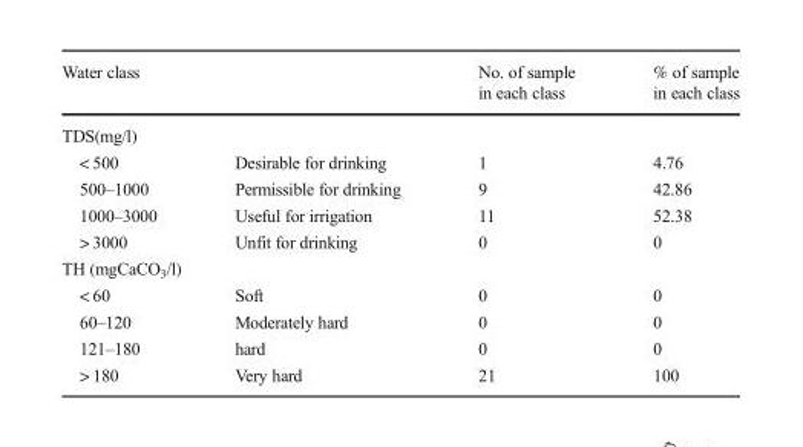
<table><thead><tr><td colspan="2">Water class</td><td>No. of sample in each class</td><td>% of sample in each class</td></tr><tr><td colspan="4">TDS(mg/l)</td></tr><tr><td>&lt; 500</td><td>Desirable for drinking</td><td>1</td><td>4.76</td></tr></thead><tbody><tr><td>500–1000</td><td>Permissible for drinking</td><td>9</td><td>42.86</td></tr><tr><td>1000–3000</td><td>Useful for irrigation</td><td>11</td><td>52.38</td></tr><tr><td>&gt; 3000</td><td>Unfit for drinking</td><td>0</td><td>0</td></tr><tr><td colspan="4">TH (mgCaCO<sub>3</sub>/l)</td></tr><tr><td>&lt; 60</td><td>Soft</td><td>0</td><td>0</td></tr><tr><td>60–120</td><td>Moderately hard</td><td>0</td><td>0</td></tr><tr><td>121–180</td><td>hard</td><td>0</td><td>0</td></tr><tr><td>&gt; 180</td><td>Very hard</td><td>21</td><td>100</td></tr></tbody></table>